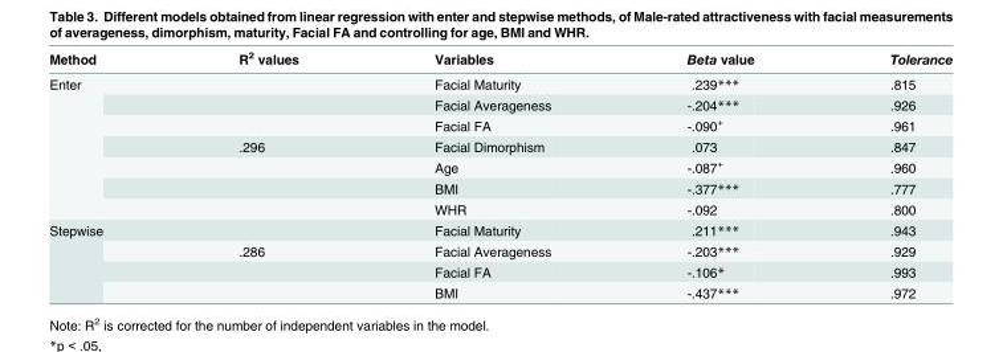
<table><thead><tr><td>Method</td><td>R<sup>2</sup> values</td><td>Variables</td><td>Beta value</td><td>Tolerance</td></tr></thead><tbody><tr><td rowspan="7">Enter</td><td></td><td>Facial Maturity</td><td>.239***</td><td>.815</td></tr><tr><td></td><td>Facial Averageness</td><td>-.204***</td><td>.926</td></tr><tr><td></td><td>Facial FA</td><td>-.090<sup>+</sup></td><td>.961</td></tr><tr><td>.296</td><td>Facial Dimorphism</td><td>.073</td><td>.847</td></tr><tr><td></td><td>Age</td><td>-.087<sup>+</sup></td><td>.960</td></tr><tr><td></td><td>BMI</td><td>-.377***</td><td>.777</td></tr><tr><td></td><td>WHR</td><td>-.092</td><td>.800</td></tr><tr><td rowspan="4">Stepwise</td><td></td><td>Facial Maturity</td><td>.211***</td><td>.943</td></tr><tr><td>.286</td><td>Facial Averageness</td><td>-.203***</td><td>.929</td></tr><tr><td></td><td>Facial FA</td><td>-.106*</td><td>.993</td></tr><tr><td></td><td>BMI</td><td>-.437***</td><td>.972</td></tr></tbody></table>